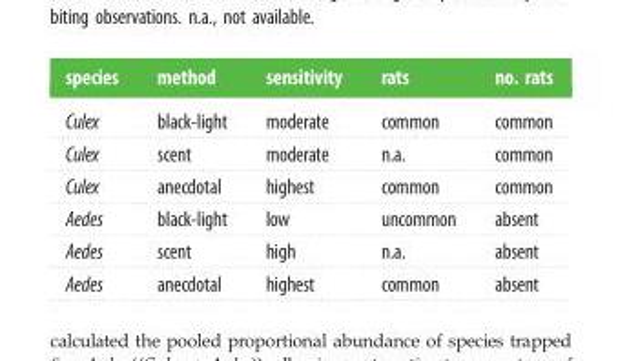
<table><thead><tr><td>species</td><td>method</td><td>sensitivity</td><td>rats</td><td>no. rats</td></tr></thead><tbody><tr><td>Culex</td><td>black-light</td><td>moderate</td><td>common</td><td>common</td></tr><tr><td>Culex</td><td>scent</td><td>moderate</td><td>n.a.</td><td>common</td></tr><tr><td>Culex</td><td>anecdotal</td><td>highest</td><td>common</td><td>common</td></tr><tr><td>Aedes</td><td>black-light</td><td>low</td><td>uncommon</td><td>absent</td></tr><tr><td>Aedes</td><td>scent</td><td>high</td><td>n.a.</td><td>absent</td></tr><tr><td>Aedes</td><td>anecdotal</td><td>highest</td><td>common</td><td>absent</td></tr></tbody></table>